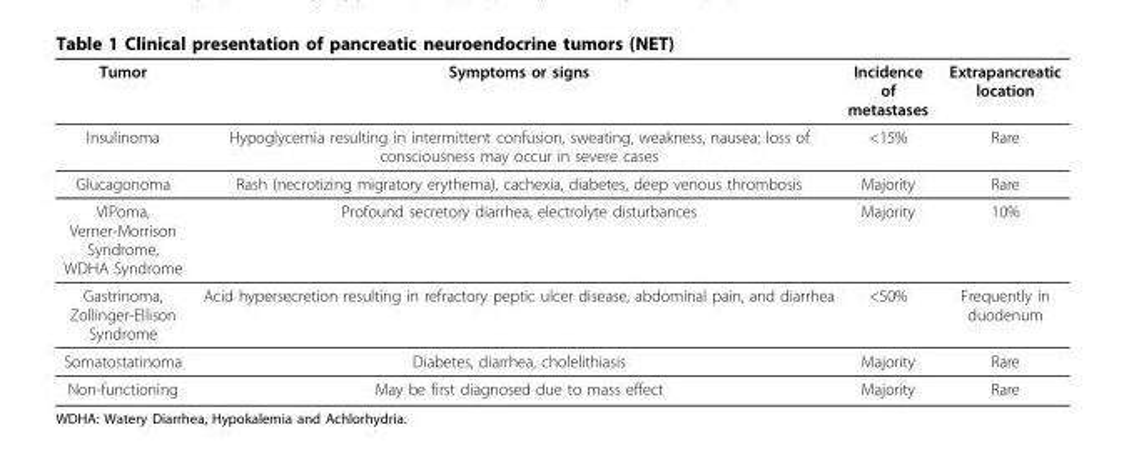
<table><thead><tr><td>Tumor</td><td>Symptoms or signs</td><td>Incidence of metastases</td><td>Extrapancreatic location</td></tr></thead><tbody><tr><td>Insulinoma</td><td>Hypoglycemia resulting in intermittent confusion, sweating, weakness, nausea; loss of consciousness may occur in severe cases</td><td>&lt;15%</td><td>Rare</td></tr><tr><td>Glucagonoma</td><td>Rash (necrotizing migratory erythema), cachexia, diabetes, deep venous thrombosis</td><td>Majority</td><td>Rare</td></tr><tr><td>VIPoma, Verner-Morrison Syndrome, WDHA Syndrome</td><td>Profound secretory diarrhea, electrolyte disturbances</td><td>Majority</td><td>10%</td></tr><tr><td>Gastrinoma, Zollinger-Ellison Syndrome</td><td>Acid hypersecretion resulting in refractory peptic ulcer disease, abdominal pain, and diarrhea</td><td>&lt;50%</td><td>Frequently in duodenum</td></tr><tr><td>Somatostatinoma</td><td>Diabetes, diarrhea, cholelithiasis</td><td>Majority</td><td>Rare</td></tr><tr><td>Non-functioning</td><td>May be first diagnosed due to mass effect</td><td>Majority</td><td>Rare</td></tr></tbody></table>